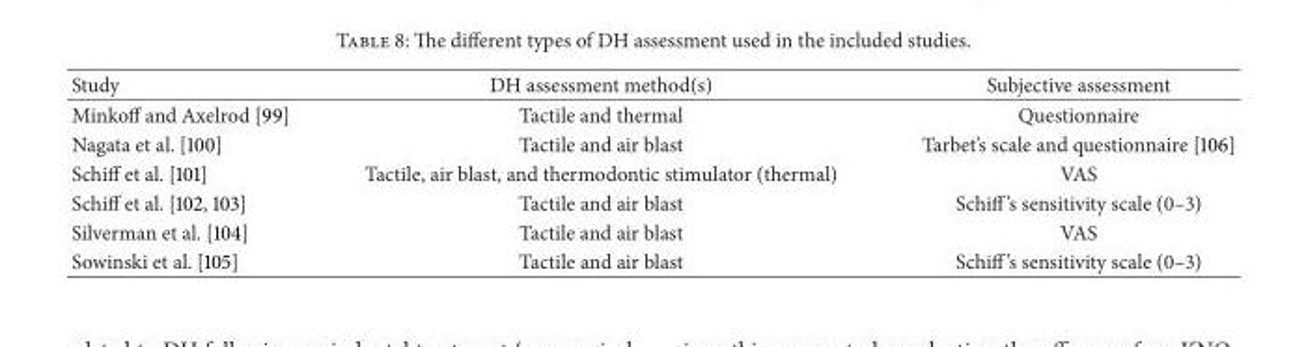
<table><thead><tr><td>Study</td><td>DH assessment method(s)</td><td>Subjective assessment</td></tr></thead><tbody><tr><td>Minkoff and Axelrod [99]</td><td>Tactile and thermal</td><td>Questionnaire</td></tr><tr><td>Nagata et al. [100]</td><td>Tactile and air blast</td><td>Tarbet’s scale and questionnaire [106]</td></tr><tr><td>Schiff et al. [101]</td><td>Tactile, air blast, and thermodontic stimulator (thermal)</td><td>VAS</td></tr><tr><td>Schiff et al. [102, 103]</td><td>Tactile and air blast</td><td>Schiff’s sensitivity scale (0–3)</td></tr><tr><td>Silverman et al. [104]</td><td>Tactile and air blast</td><td>VAS</td></tr><tr><td>Sowinski et al. [105]</td><td>Tactile and air blast</td><td>Schiff’s sensitivity scale (0–3)</td></tr></tbody></table>